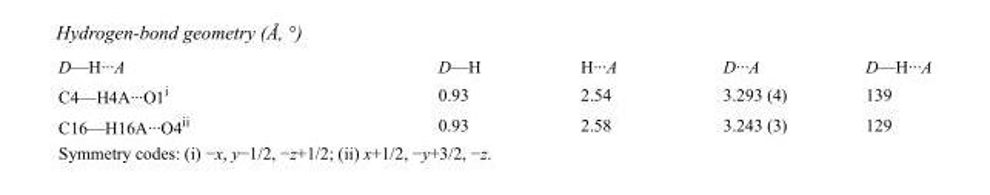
<table><tbody><tr><td>D—H···A</td><td>D—H</td><td>H···A</td><td>D···A</td><td>D—H···A</td></tr><tr><td>C4—H4A···O1<sup>i</sup></td><td>0.93</td><td>2.54</td><td>3.293 (4)</td><td>139</td></tr><tr><td>C16—H16A···O4<sup>ii</sup></td><td>0.93</td><td>2.58</td><td>3.243 (3)</td><td>129</td></tr></tbody></table>